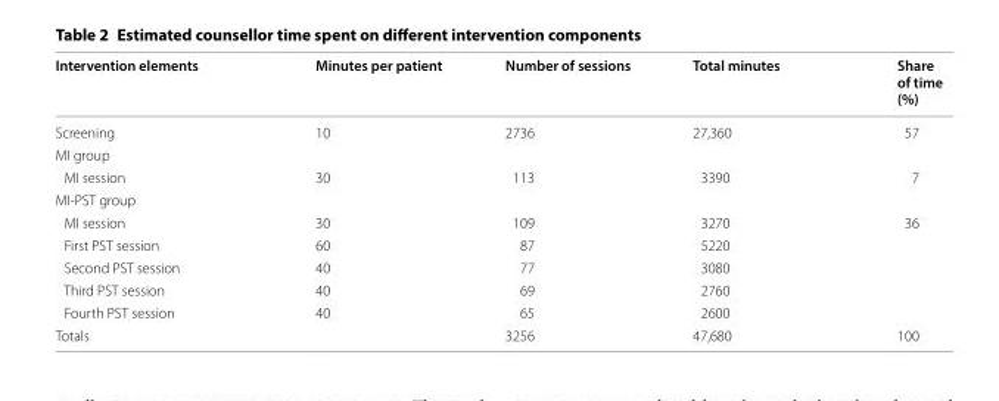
<table><thead><tr><td>Intervention elements</td><td>Minutes per patient</td><td>Number of sessions</td><td>Total minutes</td><td>Share of time (%)</td></tr></thead><tbody><tr><td>Screening</td><td>10</td><td>2736</td><td>27,360</td><td>57</td></tr><tr><td colspan="5">MI group</td></tr><tr><td>MI session</td><td>30</td><td>113</td><td>3390</td><td>7</td></tr><tr><td colspan="5">MI-PST group</td></tr><tr><td>MI session</td><td>30</td><td>109</td><td>3270</td><td>36</td></tr><tr><td>First PST session</td><td>60</td><td>87</td><td>5220</td><td></td></tr><tr><td>Second PST session</td><td>40</td><td>77</td><td>3080</td><td></td></tr><tr><td>Third PST session</td><td>40</td><td>69</td><td>2760</td><td></td></tr><tr><td>Fourth PST session</td><td>40</td><td>65</td><td>2600</td><td></td></tr><tr><td>Totals</td><td></td><td>3256</td><td>47,680</td><td>100</td></tr></tbody></table>